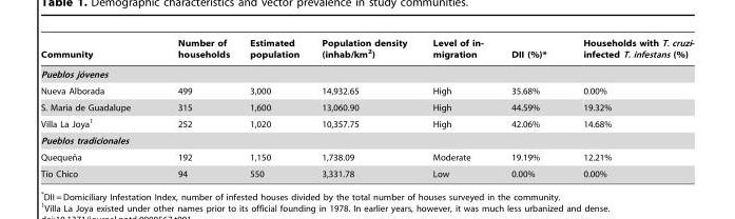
<table><thead><tr><td>Community</td><td>Number of households</td><td>Estimated population</td><td>Population density (inhab/km<sup>2</sup>)</td><td>Level of in- migration</td><td>DII (%)*</td><td>Households with T. cruzi- infected T. infestans (%)</td></tr></thead><tbody><tr><td colspan="7">Pueblos jo´venes</td></tr><tr><td>Nueva Alborada</td><td>499</td><td>3,000</td><td>14,932.65</td><td>High</td><td>35.68%</td><td>0.00%</td></tr><tr><td>S. Maria de Guadalupe</td><td>315</td><td>1,600</td><td>13,060.90</td><td>High</td><td>44.59%</td><td>19.32%</td></tr><tr><td>Villa La Joya<sup>1</sup></td><td>252</td><td>1,020</td><td>10,357.75</td><td>High</td><td>42.06%</td><td>14.68%</td></tr><tr><td colspan="7">Pueblos tradicionales</td></tr><tr><td>Quequen˜a</td><td>192</td><td>1,150</td><td>1,738.09</td><td>Moderate</td><td>19.19%</td><td>12.21%</td></tr><tr><td>Tı´o Chico</td><td>94</td><td>550</td><td>3,331.78</td><td>Low</td><td>0.00%</td><td>0.00%</td></tr></tbody></table>